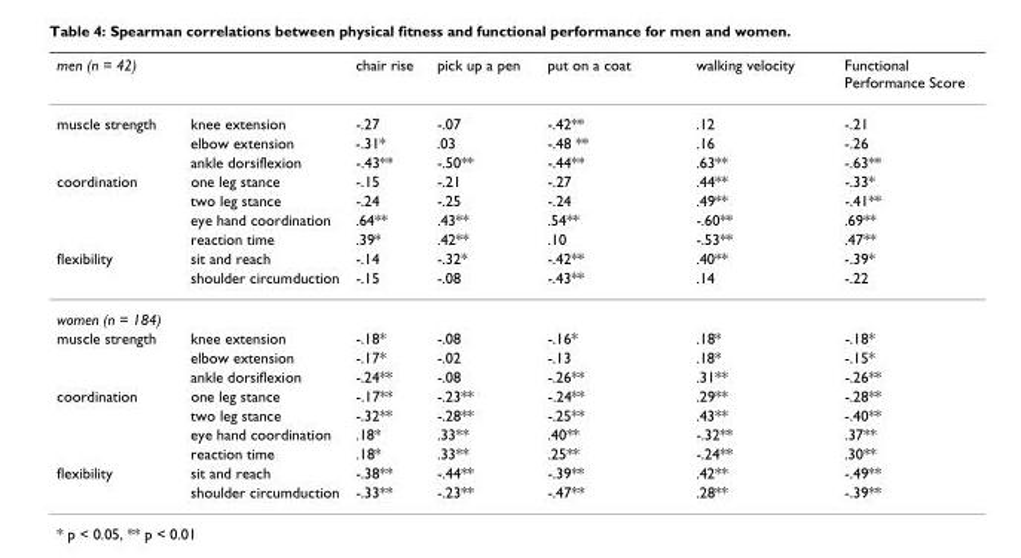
<table><thead><tr><td>men (n = 42)</td><td></td><td>chair rise</td><td>pick up a pen</td><td>put on a coat</td><td>walking velocity</td><td>Functional Performance Score</td></tr></thead><tbody><tr><td rowspan="3">muscle strength</td><td>knee extension</td><td>-.27</td><td>-.07</td><td>-.42**</td><td>.12</td><td>-.21</td></tr><tr><td>elbow extension</td><td>-.31*</td><td>.03</td><td>-.48 **</td><td>.16</td><td>-.26</td></tr><tr><td>ankle dorsiflexion</td><td>-.43**</td><td>-.50**</td><td>-.44**</td><td>.63**</td><td>-.63**</td></tr><tr><td rowspan="4">coordination</td><td>one leg stance</td><td>-.15</td><td>-.21</td><td>-.27</td><td>.44**</td><td>-.33*</td></tr><tr><td>two leg stance</td><td>-.24</td><td>-.25</td><td>-.24</td><td>.49**</td><td>-.41**</td></tr><tr><td>eye hand coordination</td><td>.64**</td><td>.43**</td><td>.54**</td><td>-.60**</td><td>.69**</td></tr><tr><td>reaction time</td><td>.39*</td><td>.42**</td><td>.10</td><td>-.53**</td><td>.47**</td></tr><tr><td rowspan="2">flexibility</td><td>sit and reach</td><td>-.14</td><td>-.32*</td><td>-.42**</td><td>.40**</td><td>-.39*</td></tr><tr><td>shoulder circumduction</td><td>-.15</td><td>-.08</td><td>-.43**</td><td>.14</td><td>-.22</td></tr><tr><td colspan="7">women (n = 184)</td></tr><tr><td rowspan="3">muscle strength</td><td>knee extension</td><td>-.18*</td><td>-.08</td><td>-.16*</td><td>.18*</td><td>-.18*</td></tr><tr><td>elbow extension</td><td>-.17*</td><td>-.02</td><td>-.13</td><td>.18*</td><td>-.15*</td></tr><tr><td>ankle dorsiflexion</td><td>-.24**</td><td>-.08</td><td>-.26**</td><td>.31**</td><td>-.26**</td></tr><tr><td rowspan="4">coordination</td><td>one leg stance</td><td>-.17**</td><td>-.23**</td><td>-.24**</td><td>.29**</td><td>-.28**</td></tr><tr><td>two leg stance</td><td>-.32**</td><td>-.28**</td><td>-.25**</td><td>.43**</td><td>-.40**</td></tr><tr><td>eye hand coordination</td><td>.18*</td><td>.33**</td><td>.40**</td><td>-.32**</td><td>.37**</td></tr><tr><td>reaction time</td><td>.18*</td><td>.33**</td><td>.25**</td><td>-.24**</td><td>.30**</td></tr><tr><td rowspan="2">flexibility</td><td>sit and reach</td><td>-.38**</td><td>-.44**</td><td>-.39**</td><td>.42**</td><td>-.49**</td></tr><tr><td>shoulder circumduction</td><td>-.33**</td><td>-.23**</td><td>-.47**</td><td>.28**</td><td>-.39**</td></tr></tbody></table>